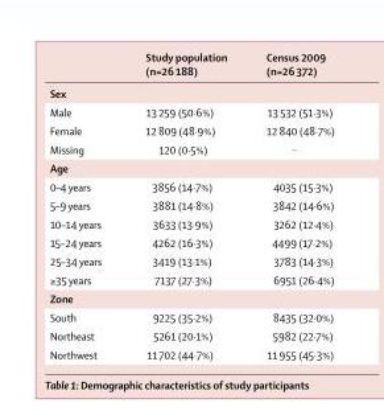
<table><thead><tr><td></td><td>Study population (n=26 188)</td><td>Census 2009 (n=26 372)</td></tr></thead><tbody><tr><td colspan="3">Sex</td></tr><tr><td>Male</td><td>13 259 (50·6%)</td><td>13 532 (51·3%)</td></tr><tr><td>Female</td><td>12 809 (48·9%)</td><td>12 840 (48·7%)</td></tr><tr><td>Missing</td><td>120 (0·5%)</td><td>··</td></tr><tr><td colspan="3">Age</td></tr><tr><td>0–4 years</td><td>3856 (14·7%)</td><td>4035 (15·3%)</td></tr><tr><td>5–9 years</td><td>3881 (14·8%)</td><td>3842 (14·6%)</td></tr><tr><td>10–14 years</td><td>3633 (13·9%)</td><td>3262 (12·4%)</td></tr><tr><td>15–24 years</td><td>4262 (16·3%)</td><td>4499 (17·2%)</td></tr><tr><td>25–34 years</td><td>3419 (13·1%)</td><td>3783 (14·3%)</td></tr><tr><td>≥35 years</td><td>7137 (27·3%)</td><td>6951 (26·4%)</td></tr><tr><td colspan="3">Zone</td></tr><tr><td>South</td><td>9225 (35·2%)</td><td>8435 (32·0%)</td></tr><tr><td>Northeast</td><td>5261 (20·1%)</td><td>5982 (22·7%)</td></tr><tr><td>Northwest</td><td>11 702 (44·7%)</td><td>11 955 (45·3%)</td></tr></tbody></table>